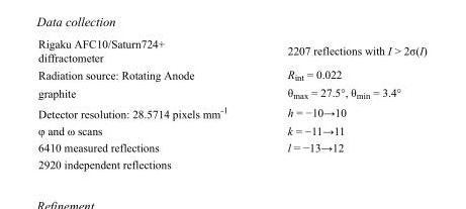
<table><tbody><tr><td>Rigaku AFC10/Saturn724+ diffractometer</td><td>2207 reflections with I &gt; 2σ(I)</td></tr><tr><td>Radiation source: Rotating Anode</td><td>R<sub>int</sub> = 0.022</td></tr><tr><td>graphite</td><td>θ<sub>max</sub> = 27.5°, θ<sub>min</sub> = 3.4°</td></tr><tr><td>Detector resolution: 28.5714 pixels mm<sup>-1</sup></td><td>h = −10→10</td></tr><tr><td>φ and ω scans</td><td>k = −11→11</td></tr><tr><td>6410 measured reflections</td><td>l = −13→12</td></tr><tr><td>2920 independent reflections</td><td></td></tr></tbody></table>